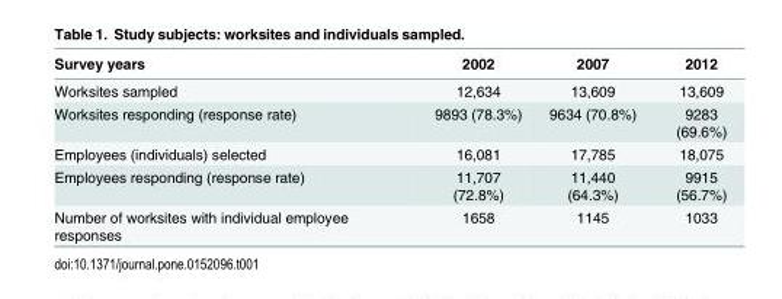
<table><thead><tr><td>Survey years</td><td>2002</td><td>2007</td><td>2012</td></tr></thead><tbody><tr><td>Worksites sampled</td><td>12,634</td><td>13,609</td><td>13,609</td></tr><tr><td>Worksites responding (response rate)</td><td>9893 (78.3%)</td><td>9634 (70.8%)</td><td>9283 (69.6%)</td></tr><tr><td>Employees (individuals) selected</td><td>16,081</td><td>17,785</td><td>18,075</td></tr><tr><td>Employees responding (response rate)</td><td>11,707 (72.8%)</td><td>11,440 (64.3%)</td><td>9915 (56.7%)</td></tr><tr><td>Number of worksites with individual employee responses</td><td>1658</td><td>1145</td><td>1033</td></tr></tbody></table>